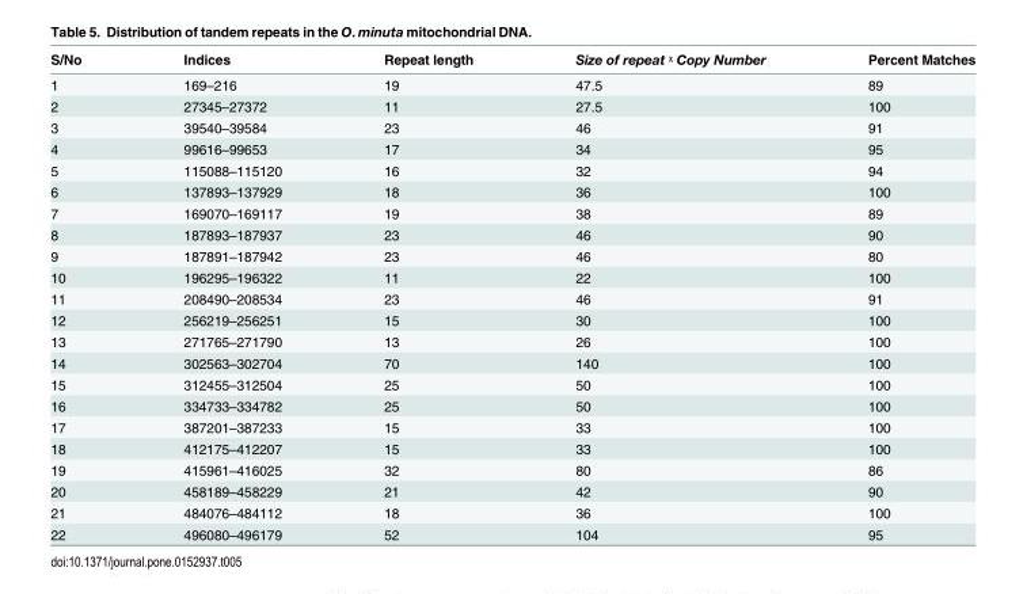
<table><thead><tr><td>S/No</td><td>Indices</td><td>Repeat length</td><td>Size of repeat ᵡ Copy Number</td><td>Percent Matches</td></tr></thead><tbody><tr><td>1</td><td>169–216</td><td>19</td><td>47.5</td><td>89</td></tr><tr><td>2</td><td>27345–27372</td><td>11</td><td>27.5</td><td>100</td></tr><tr><td>3</td><td>39540–39584</td><td>23</td><td>46</td><td>91</td></tr><tr><td>4</td><td>99616–99653</td><td>17</td><td>34</td><td>95</td></tr><tr><td>5</td><td>115088–115120</td><td>16</td><td>32</td><td>94</td></tr><tr><td>6</td><td>137893–137929</td><td>18</td><td>36</td><td>100</td></tr><tr><td>7</td><td>169070–169117</td><td>19</td><td>38</td><td>89</td></tr><tr><td>8</td><td>187893–187937</td><td>23</td><td>46</td><td>90</td></tr><tr><td>9</td><td>187891–187942</td><td>23</td><td>46</td><td>80</td></tr><tr><td>10</td><td>196295–196322</td><td>11</td><td>22</td><td>100</td></tr><tr><td>11</td><td>208490–208534</td><td>23</td><td>46</td><td>91</td></tr><tr><td>12</td><td>256219–256251</td><td>15</td><td>30</td><td>100</td></tr><tr><td>13</td><td>271765–271790</td><td>13</td><td>26</td><td>100</td></tr><tr><td>14</td><td>302563–302704</td><td>70</td><td>140</td><td>100</td></tr><tr><td>15</td><td>312455–312504</td><td>25</td><td>50</td><td>100</td></tr><tr><td>16</td><td>334733–334782</td><td>25</td><td>50</td><td>100</td></tr><tr><td>17</td><td>387201–387233</td><td>15</td><td>33</td><td>100</td></tr><tr><td>18</td><td>412175–412207</td><td>15</td><td>33</td><td>100</td></tr><tr><td>19</td><td>415961–416025</td><td>32</td><td>80</td><td>86</td></tr><tr><td>20</td><td>458189–458229</td><td>21</td><td>42</td><td>90</td></tr><tr><td>21</td><td>484076–484112</td><td>18</td><td>36</td><td>100</td></tr><tr><td>22</td><td>496080–496179</td><td>52</td><td>104</td><td>95</td></tr></tbody></table>